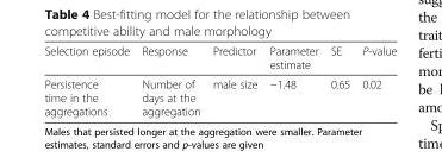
<table><thead><tr><td>Selection episode</td><td>Response</td><td>Predictor</td><td>Parameter estimate</td><td>SE</td><td>P-value</td></tr></thead><tbody><tr><td>Persistence time in the aggregations</td><td>Number of days at the aggregation</td><td>male size</td><td>−1.48</td><td>0.65</td><td>0.02</td></tr></tbody></table>